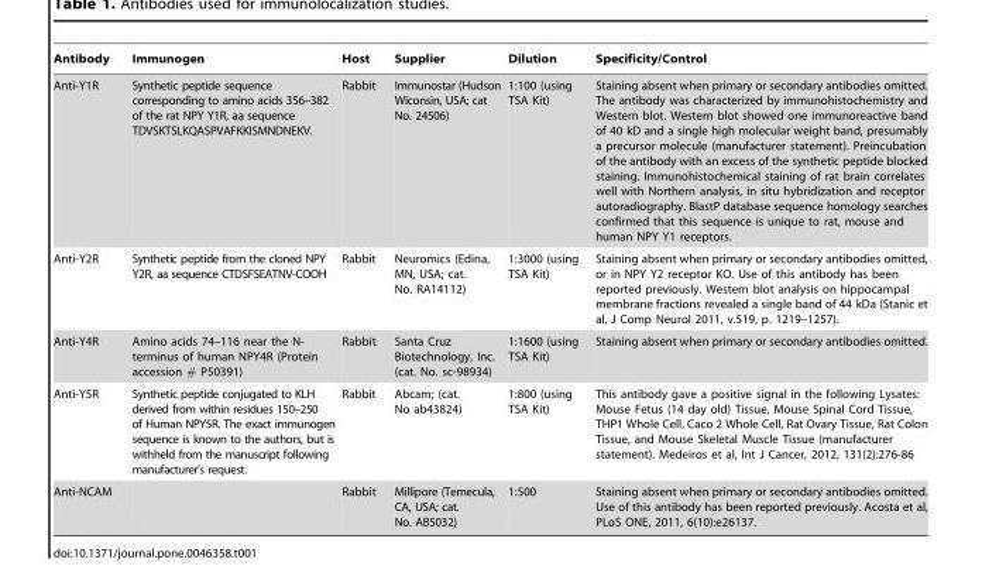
<table><thead><tr><td>Antibody</td><td>Immunogen</td><td>Host</td><td>Supplier</td><td>Dilution</td><td>Specificity/Control</td></tr></thead><tbody><tr><td>Anti-Y1R</td><td>Synthetic peptide sequence corresponding to amino acids 356–382 of the rat NPY Y1R, aa sequence TDVSKTSLKQASPVAFKKISMNDNEKV.</td><td>Rabbit</td><td>Immunostar (Hudson Wiconsin, USA; cat No. 24506)</td><td>1:100 (using TSA Kit)</td><td>Staining absent when primary or secondary antibodies omitted. The antibody was characterized by immunohistochemistry and Western blot. Western blot showed one immunoreactive band of 40 kD and a single high molecular weight band, presumably a precursor molecule (manufacturer statement). Preincubation of the antibody with an excess of the synthetic peptide blocked staining. Immunohistochemical staining of rat brain correlates well with Northern analysis, in situ hybridization and receptor autoradiography. BlastP database sequence homology searches confirmed that this sequence is unique to rat, mouse and human NPY Y1 receptors.</td></tr><tr><td>Anti-Y2R</td><td>Synthetic peptide from the cloned NPY Y2R, aa sequence CTDSFSEATNV-COOH</td><td>Rabbit</td><td>Neuromics (Edina, MN, USA; cat. No. RA14112)</td><td>1:3000 (using TSA Kit)</td><td>Staining absent when primary or secondary antibodies omitted, or in NPY Y2 receptor KO. Use of this antibody has been reported previously. Western blot analysis on hippocampal membrane fractions revealed a single band of 44 kDa (Stanic et al, J Comp Neurol 2011, v.519, p. 1219–1257).</td></tr><tr><td>Anti-Y4R</td><td>Amino acids 74–116 near the N- terminus of human NPY4R (Protein accession # P50391)</td><td>Rabbit</td><td>Santa Cruz Biotechnology, Inc. (cat. No. sc-98934)</td><td>1:1600 (using TSA Kit)</td><td>Staining absent when primary or secondary antibodies omitted.</td></tr><tr><td>Anti-Y5R</td><td>Synthetic peptide conjugated to KLH derived from within residues 150–250 of Human NPY5R. The exact immunogen sequence is known to the authors, but is withheld from the manuscript following manufacturer’s request.</td><td>Rabbit</td><td>Abcam; (cat. No ab43824)</td><td>1:800 (using TSA Kit)</td><td>This antibody gave a positive signal in the following Lysates: Mouse Fetus (14 day old) Tissue, Mouse Spinal Cord Tissue, THP1 Whole Cell, Caco 2 Whole Cell, Rat Ovary Tissue, Rat Colon Tissue, and Mouse Skeletal Muscle Tissue (manufacturer statement). Medeiros et al, Int J Cancer, 2012, 131(2):276-86</td></tr><tr><td>Anti-NCAM</td><td></td><td>Rabbit</td><td>Millipore (Temecula, CA, USA; cat. No. AB5032)</td><td>1:500</td><td>Staining absent when primary or secondary antibodies omitted. Use of this antibody has been reported previously. Acosta et al, PLoS ONE, 2011, 6(10):e26137.</td></tr></tbody></table>